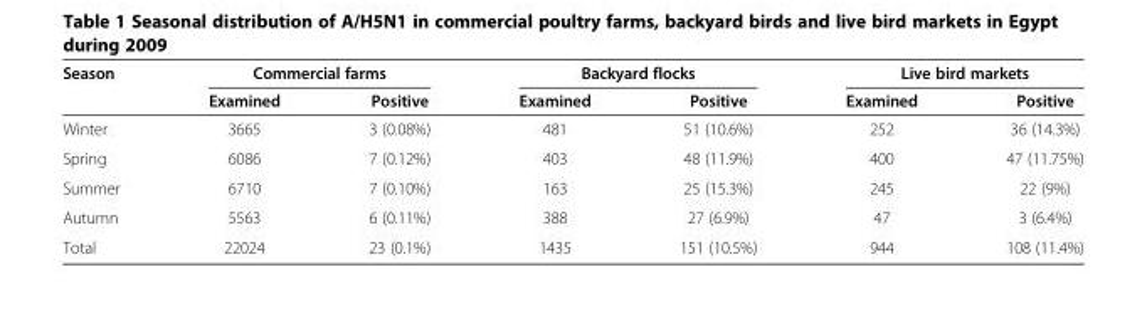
<table><thead><tr><td rowspan="2">Season</td><td colspan="2">Commercial farms</td><td colspan="2">Backyard flocks</td><td colspan="2">Live bird markets</td></tr><tr><td>Examined</td><td>Positive</td><td>Examined</td><td>Positive</td><td>Examined</td><td>Positive</td></tr></thead><tbody><tr><td>Winter</td><td>3665</td><td>3 (0.08%)</td><td>481</td><td>51 (10.6%)</td><td>252</td><td>36 (14.3%)</td></tr><tr><td>Spring</td><td>6086</td><td>7 (0.12%)</td><td>403</td><td>48 (11.9%)</td><td>400</td><td>47 (11.75%)</td></tr><tr><td>Summer</td><td>6710</td><td>7 (0.10%)</td><td>163</td><td>25 (15.3%)</td><td>245</td><td>22 (9%)</td></tr><tr><td>Autumn</td><td>5563</td><td>6 (0.11%)</td><td>388</td><td>27 (6.9%)</td><td>47</td><td>3 (6.4%)</td></tr><tr><td>Total</td><td>22024</td><td>23 (0.1%)</td><td>1435</td><td>151 (10.5%)</td><td>944</td><td>108 (11.4%)</td></tr></tbody></table>